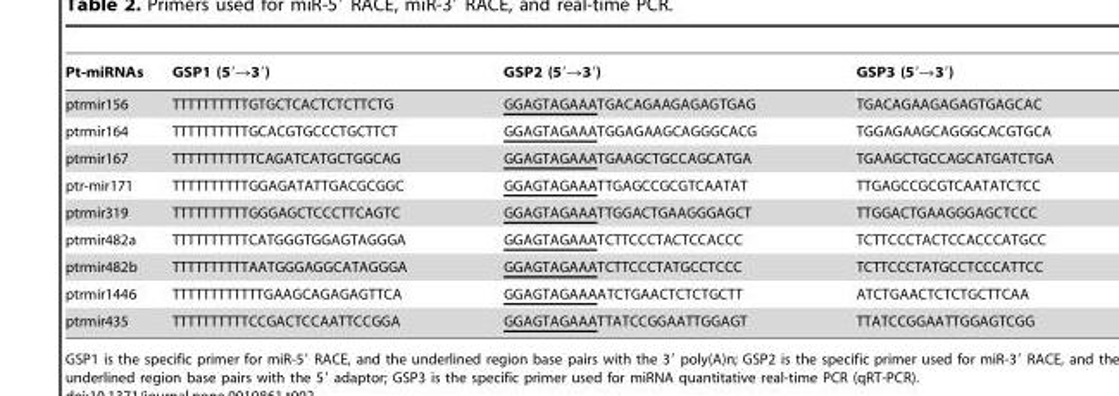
<table><thead><tr><td>Pt-miRNAs</td><td>GSP1 (5′→3′)</td><td>GSP2 (5′→3′)</td><td>GSP3 (5′→3′)</td></tr></thead><tbody><tr><td>ptrmir156</td><td>TTTTTTTTTTGTGCTCACTCTCTTCTG</td><td>GGAGTAGAAATGACAGAAGAGAGTGAG</td><td>TGACAGAAGAGAGTGAGCAC</td></tr><tr><td>ptrmir164</td><td>TTTTTTTTTTGCACGTGCCCTGCTTCT</td><td>GGAGTAGAAATGGAGAAGCAGGGCACG</td><td>TGGAGAAGCAGGGCACGTGCA</td></tr><tr><td>ptrmir167</td><td>TTTTTTTTTTTCAGATCATGCTGGCAG</td><td>GGAGTAGAAATGAAGCTGCCAGCATGA</td><td>TGAAGCTGCCAGCATGATCTGA</td></tr><tr><td>ptr-mir171</td><td>TTTTTTTTTTGGAGATATTGACGCGGC</td><td>GGAGTAGAAATTGAGCCGCGTCAATAT</td><td>TTGAGCCGCGTCAATATCTCC</td></tr><tr><td>ptrmir319</td><td>TTTTTTTTTTGGGAGCTCCCTTCAGTC</td><td>GGAGTAGAAATTGGACTGAAGGGAGCT</td><td>TTGGACTGAAGGGAGCTCCC</td></tr><tr><td>ptrmir482a</td><td>TTTTTTTTTTCATGGGTGGAGTAGGGA</td><td>GGAGTAGAAATCTTCCCTACTCCACCC</td><td>TCTTCCCTACTCCACCCATGCC</td></tr><tr><td>ptrmir482b</td><td>TTTTTTTTTTAATGGGAGGCATAGGGA</td><td>GGAGTAGAAATCTTCCCTATGCCTCCC</td><td>TCTTCCCTATGCCTCCCATTCC</td></tr><tr><td>ptrmir1446</td><td>TTTTTTTTTTTTGAAGCAGAGAGTTCA</td><td>GGAGTAGAAAATCTGAACTCTCTGCTT</td><td>ATCTGAACTCTCTGCTTCAA</td></tr><tr><td>ptrmir435</td><td>TTTTTTTTTTCCGACTCCAATTCCGGA</td><td>GGAGTAGAAATTATCCGGAATTGGAGT</td><td>TTATCCGGAATTGGAGTCGG</td></tr></tbody></table>